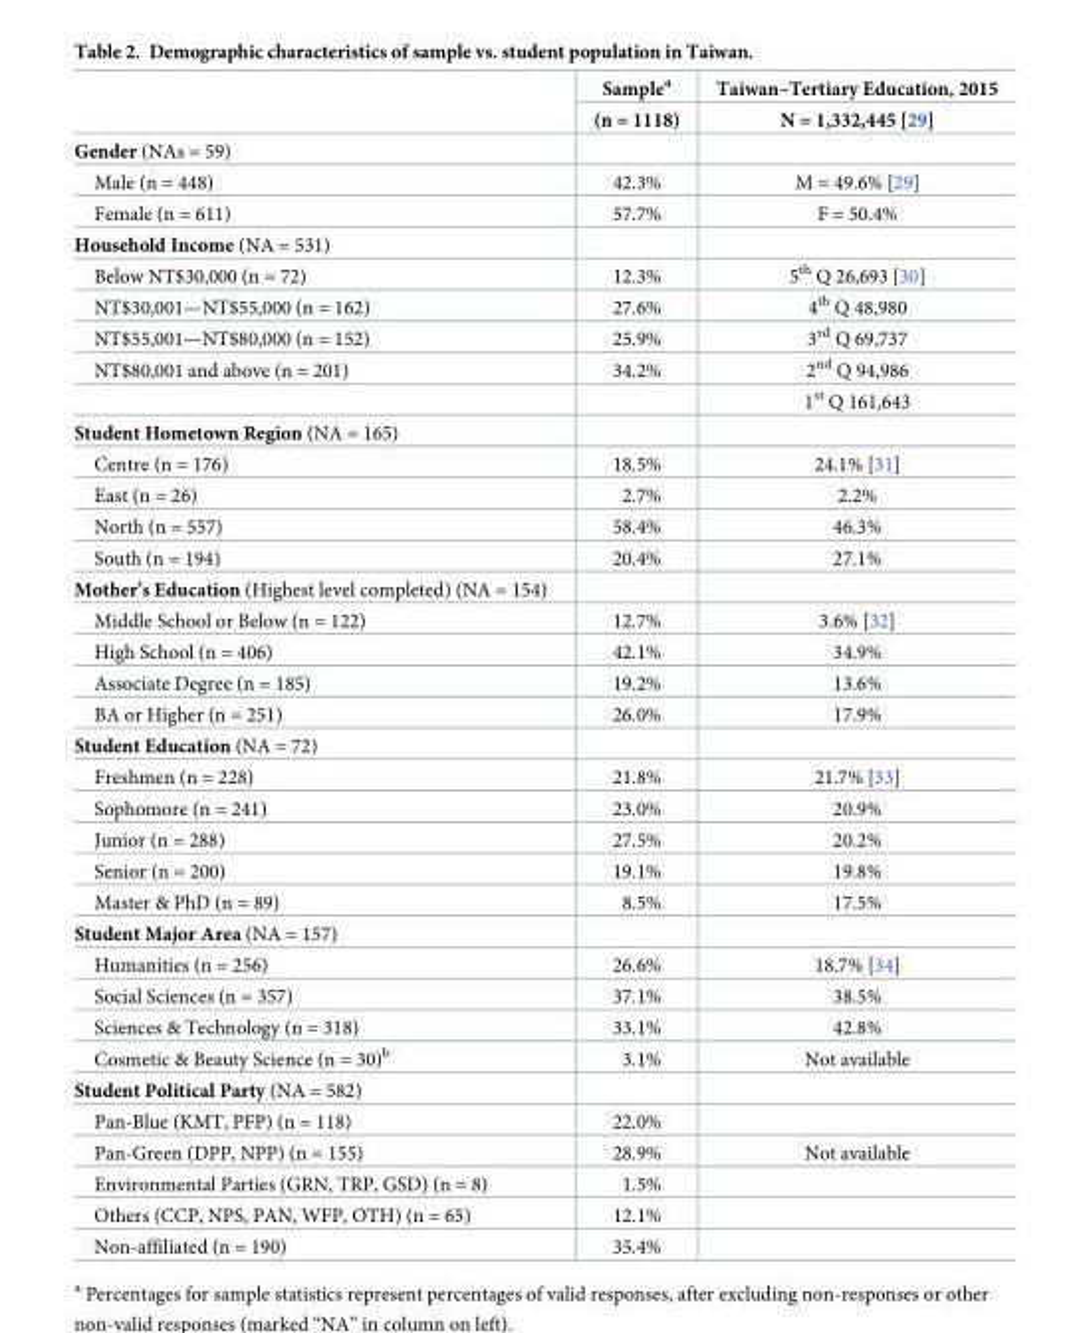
<table><thead><tr><td rowspan="2"></td><td rowspan="2">Sample<sup>a</sup> (n = 1118)</td><td rowspan="2">Taiwan–Tertiary Education, 2015 N = 1,332,445 [29]</td></tr><tr></tr></thead><tbody><tr><td colspan="3">Gender (NAs = 59)</td></tr><tr><td>Male (n = 448)</td><td>42.3%</td><td>M = 49.6% [29]</td></tr><tr><td>Female (n = 611)</td><td>57.7%</td><td>F = 50.4%</td></tr><tr><td colspan="3">Household Income (NA = 531)</td></tr><tr><td>Below NT$30,000 (n = 72)</td><td>12.3%</td><td>5<sup>th</sup> Q 26,693 [30]</td></tr><tr><td>NT$30,001—NT$55,000 (n = 162)</td><td>27.6%</td><td>4<sup>th</sup> Q 48,980</td></tr><tr><td>NT$55,001—NT$80,000 (n = 152)</td><td>25.9%</td><td>3<sup>rd</sup> Q 69,737</td></tr><tr><td rowspan="2">NT$80,001 and above (n = 201)</td><td>34.2%</td><td>2<sup>nd</sup> Q 94,986</td></tr><tr><td></td><td>1<sup>st</sup> Q 161,643</td></tr><tr><td colspan="3">Student Hometown Region (NA = 165)</td></tr><tr><td>Centre (n = 176)</td><td>18.5%</td><td>24.1% [31]</td></tr><tr><td>East (n = 26)</td><td>2.7%</td><td>2.2%</td></tr><tr><td>North (n = 557)</td><td>58.4%</td><td>46.3%</td></tr><tr><td>South (n = 194)</td><td>20.4%</td><td>27.1%</td></tr><tr><td colspan="3">Mother’s Education (Highest level completed) (NA = 154)</td></tr><tr><td>Middle School or Below (n = 122)</td><td>12.7%</td><td>3.6% [32]</td></tr><tr><td>High School (n = 406)</td><td>42.1%</td><td>34.9%</td></tr><tr><td>Associate Degree (n = 185)</td><td>19.2%</td><td>13.6%</td></tr><tr><td>BA or Higher (n = 251)</td><td>26.0%</td><td>17.9%</td></tr><tr><td colspan="3">Student Education (NA = 72)</td></tr><tr><td>Freshmen (n = 228)</td><td>21.8%</td><td>21.7% [33]</td></tr><tr><td>Sophomore (n = 241)</td><td>23.0%</td><td>20.9%</td></tr><tr><td>Junior (n = 288)</td><td>27.5%</td><td>20.2%</td></tr><tr><td>Senior (n = 200)</td><td>19.1%</td><td>19.8%</td></tr><tr><td>Master &amp; PhD (n = 89)</td><td>8.5%</td><td>17.5%</td></tr><tr><td colspan="3">Student Major Area (NA = 157)</td></tr><tr><td>Humanities (n = 256)</td><td>26.6%</td><td>18.7% [34]</td></tr><tr><td>Social Sciences (n = 357)</td><td>37.1%</td><td>38.5%</td></tr><tr><td>Sciences &amp; Technology (n = 318)</td><td>33.1%</td><td>42.8%</td></tr><tr><td>Cosmetic &amp; Beauty Science (n = 30)<sup>b</sup></td><td>3.1%</td><td>Not available</td></tr><tr><td colspan="3">Student Political Party (NA = 582)</td></tr><tr><td>Pan-Blue (KMT, PFP) (n = 118)</td><td>22.0%</td><td></td></tr><tr><td>Pan-Green (DPP, NPP) (n = 155)</td><td>28.9%</td><td>Not available</td></tr><tr><td>Environmental Parties (GRN, TRP, GSD) (n = 8)</td><td>1.5%</td><td></td></tr><tr><td>Others (CCP, NPS, PAN, WFP, OTH) (n = 65)</td><td>12.1%</td><td></td></tr><tr><td>Non-affiliated (n = 190)</td><td>35.4%</td><td></td></tr></tbody></table>